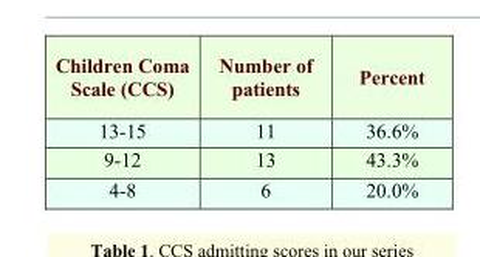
<table><thead><tr><td>Children Coma Scale (CCS)</td><td>Number of patients</td><td>Percent</td></tr></thead><tbody><tr><td>13-15</td><td>11</td><td>36.6%</td></tr><tr><td>9-12</td><td>13</td><td>43.3%</td></tr><tr><td>4-8</td><td>6</td><td>20.0%</td></tr></tbody></table>